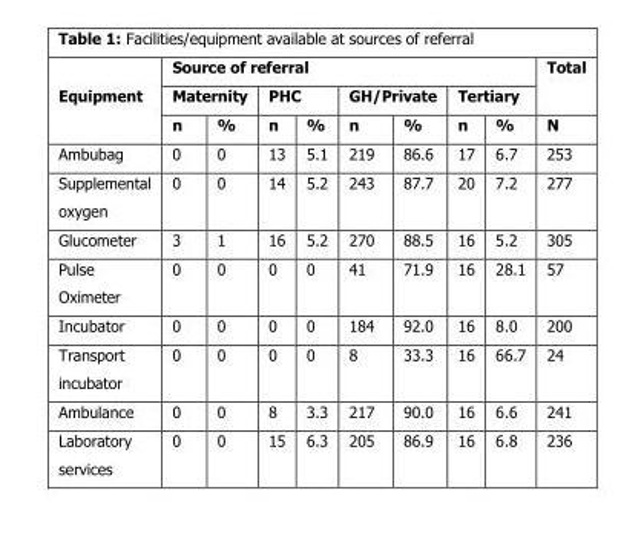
<table><thead><tr><td rowspan="3">Equipment</td><td colspan="8">Source of referral</td><td rowspan="3">Total N</td></tr><tr><td colspan="2">Maternity</td><td colspan="2">PHC</td><td colspan="2">GH/Private</td><td colspan="2">Tertiary</td></tr><tr><td>n</td><td>%</td><td>n</td><td>%</td><td>n</td><td>%</td><td>n</td><td>%</td></tr></thead><tbody><tr><td>Ambubag</td><td>0</td><td>0</td><td>13</td><td>5.1</td><td>219</td><td>86.6</td><td>17</td><td>6.7</td><td>253</td></tr><tr><td>Supplemental oxygen</td><td>0</td><td>0</td><td>14</td><td>5.2</td><td>243</td><td>87.7</td><td>20</td><td>7.2</td><td>277</td></tr><tr><td>Glucometer</td><td>3</td><td>1</td><td>16</td><td>5.2</td><td>270</td><td>88.5</td><td>16</td><td>5.2</td><td>305</td></tr><tr><td>Pulse Oximeter</td><td>0</td><td>0</td><td>0</td><td>0</td><td>41</td><td>71.9</td><td>16</td><td>28.1</td><td>57</td></tr><tr><td>Incubator</td><td>0</td><td>0</td><td>0</td><td>0</td><td>184</td><td>92.0</td><td>16</td><td>8.0</td><td>200</td></tr><tr><td>Transport incubator</td><td>0</td><td>0</td><td>0</td><td>0</td><td>8</td><td>33.3</td><td>16</td><td>66.7</td><td>24</td></tr><tr><td>Ambulance</td><td>0</td><td>0</td><td>8</td><td>3.3</td><td>217</td><td>90.0</td><td>16</td><td>6.6</td><td>241</td></tr><tr><td>Laboratory services</td><td>0</td><td>0</td><td>15</td><td>6.3</td><td>205</td><td>86.9</td><td>16</td><td>6.8</td><td>236</td></tr></tbody></table>